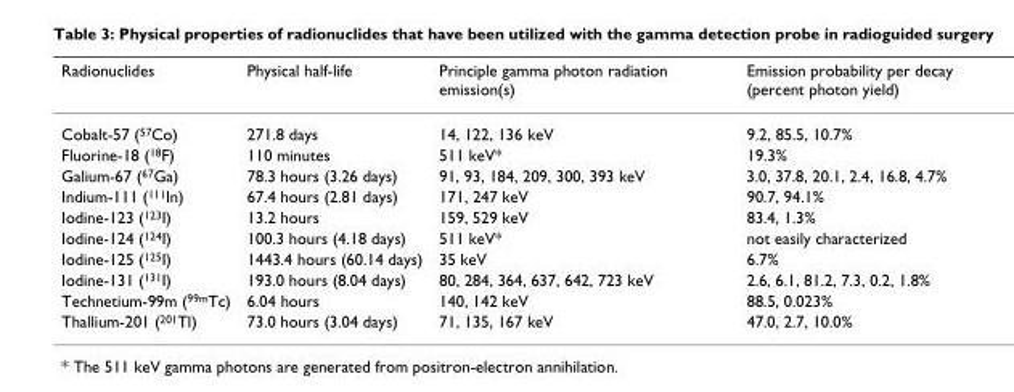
<table><thead><tr><td>Radionuclides</td><td>Physical half-life</td><td>Principle gamma photon radiation emission(s)</td><td>Emission probability per decay (percent photon yield)</td></tr></thead><tbody><tr><td>Cobalt-57 (<sup>57</sup>Co)</td><td>271.8 days</td><td>14, 122, 136 keV</td><td>9.2, 85.5, 10.7%</td></tr><tr><td>Fluorine-18 (<sup>18</sup>F)</td><td>110 minutes</td><td>511 keV*</td><td>19.3%</td></tr><tr><td>Galium-67 (<sup>67</sup>Ga)</td><td>78.3 hours (3.26 days)</td><td>91, 93, 184, 209, 300, 393 keV</td><td>3.0, 37.8, 20.1, 2.4, 16.8, 4.7%</td></tr><tr><td>Indium-111 (<sup>111</sup>In)</td><td>67.4 hours (2.81 days)</td><td>171, 247 keV</td><td>90.7, 94.1%</td></tr><tr><td>Iodine-123 (<sup>123</sup>I)</td><td>13.2 hours</td><td>159, 529 keV</td><td>83.4, 1.3%</td></tr><tr><td>Iodine-124 (<sup>124</sup>I)</td><td>100.3 hours (4.18 days)</td><td>511 keV*</td><td>not easily characterized</td></tr><tr><td>Iodine-125 (<sup>125</sup>I)</td><td>1443.4 hours (60.14 days)</td><td>35 keV</td><td>6.7%</td></tr><tr><td>Iodine-131 (<sup>131</sup>I)</td><td>193.0 hours (8.04 days)</td><td>80, 284, 364, 637, 642, 723 keV</td><td>2.6, 6.1, 81.2, 7.3, 0.2, 1.8%</td></tr><tr><td>Technetium-99m (<sup>99m</sup>Tc)</td><td>6.04 hours</td><td>140, 142 keV</td><td>88.5, 0.023%</td></tr><tr><td>Thallium-201 (<sup>201</sup>Tl)</td><td>73.0 hours (3.04 days)</td><td>71, 135, 167 keV</td><td>47.0, 2.7, 10.0%</td></tr></tbody></table>